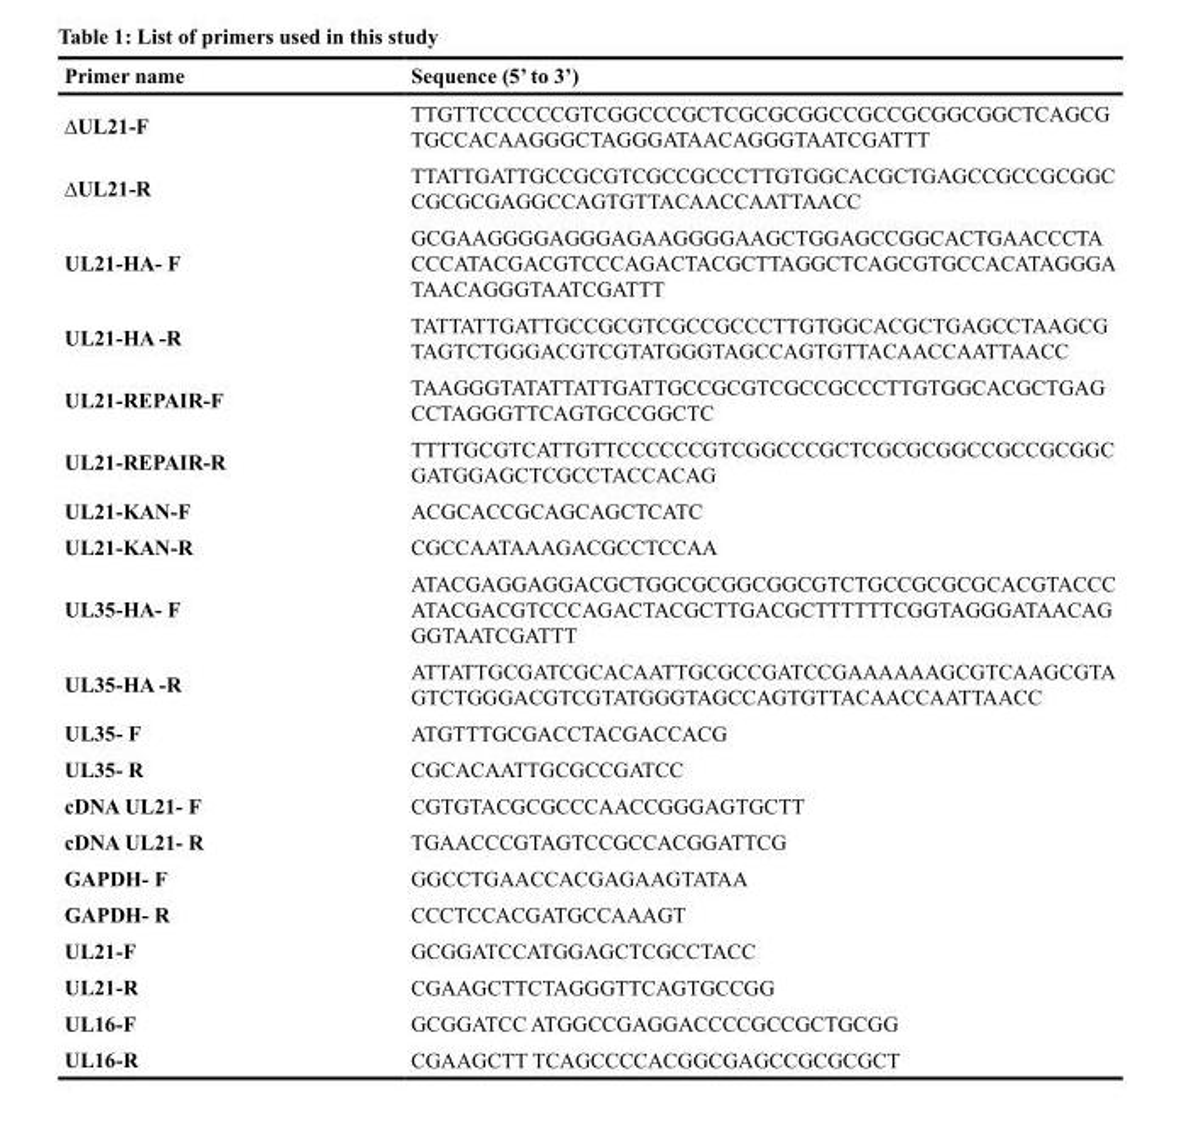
<table><thead><tr><td>Primer name</td><td>Sequence (5’ to 3’)</td></tr></thead><tbody><tr><td>∆UL21-F</td><td>TTGTTCCCCCCGTCGGCCCGCTCGCGCGGCCGCCGCGGCGGCTCAGCG TGCCACAAGGGCTAGGGATAACAGGGTAATCGATTT</td></tr><tr><td>∆UL21-R</td><td>TTATTGATTGCCGCGTCGCCGCCCTTGTGGCACGCTGAGCCGCCGCGGC CGCGCGAGGCCAGTGTTACAACCAATTAACC</td></tr><tr><td>UL21-HA- F</td><td>GCGAAGGGGAGGGAGAAGGGGAAGCTGGAGCCGGCACTGAACCCTA CCCATACGACGTCCCAGACTACGCTTAGGCTCAGCGTGCCACATAGGGA TAACAGGGTAATCGATTT</td></tr><tr><td>UL21-HA -R</td><td>TATTATTGATTGCCGCGTCGCCGCCCTTGTGGCACGCTGAGCCTAAGCG TAGTCTGGGACGTCGTATGGGTAGCCAGTGTTACAACCAATTAACC</td></tr><tr><td>UL21-REPAIR-F</td><td>TAAGGGTATATTATTGATTGCCGCGTCGCCGCCCTTGTGGCACGCTGAG CCTAGGGTTCAGTGCCGGCTC</td></tr><tr><td>UL21-REPAIR-R</td><td>TTTTGCGTCATTGTTCCCCCCGTCGGCCCGCTCGCGCGGCCGCCGCGGC GATGGAGCTCGCCTACCACAG</td></tr><tr><td>UL21-KAN-F</td><td>ACGCACCGCAGCAGCTCATC</td></tr><tr><td>UL21-KAN-R</td><td>CGCCAATAAAGACGCCTCCAA</td></tr><tr><td>UL35-HA- F</td><td>ATACGAGGAGGACGCTGGCGCGGCGGCGTCTGCCGCGCGCACGTACCC ATACGACGTCCCAGACTACGCTTGACGCTTTTTTCGGTAGGGATAACAG GGTAATCGATTT</td></tr><tr><td>UL35-HA -R</td><td>ATTATTGCGATCGCACAATTGCGCCGATCCGAAAAAAGCGTCAAGCGTA GTCTGGGACGTCGTATGGGTAGCCAGTGTTACAACCAATTAACC</td></tr><tr><td>UL35- F</td><td>ATGTTTGCGACCTACGACCACG</td></tr><tr><td>UL35- R</td><td>CGCACAATTGCGCCGATCC</td></tr><tr><td>cDNA UL21- F</td><td>CGTGTACGCGCCCAACCGGGAGTGCTT</td></tr><tr><td>cDNA UL21- R</td><td>TGAACCCGTAGTCCGCCACGGATTCG</td></tr><tr><td>GAPDH- F</td><td>GGCCTGAACCACGAGAAGTATAA</td></tr><tr><td>GAPDH- R</td><td>CCCTCCACGATGCCAAAGT</td></tr><tr><td>UL21-F</td><td>GCGGATCCATGGAGCTCGCCTACC</td></tr><tr><td>UL21-R</td><td>CGAAGCTTCTAGGGTTCAGTGCCGG</td></tr><tr><td>UL16-F</td><td>GCGGATCC ATGGCCGAGGACCCCGCCGCTGCGG</td></tr><tr><td>UL16-R</td><td>CGAAGCTT TCAGCCCCACGGCGAGCCGCGCGCT</td></tr></tbody></table>